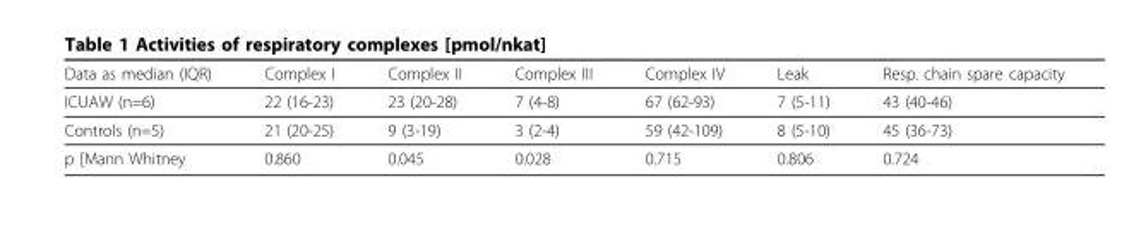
<table><thead><tr><td>Data as median (IQR)</td><td>Complex I</td><td>Complex II</td><td>Complex III</td><td>Complex IV</td><td>Leak</td><td>Resp. chain spare capacity</td></tr></thead><tbody><tr><td>ICUAW (n=6)</td><td>22 (16-23)</td><td>23 (20-28)</td><td>7 (4-8)</td><td>67 (62-93)</td><td>7 (5-11)</td><td>43 (40-46)</td></tr><tr><td>Controls (n=5)</td><td>21 (20-25)</td><td>9 (3-19)</td><td>3 (2-4)</td><td>59 (42-109)</td><td>8 (5-10)</td><td>45 (36-73)</td></tr><tr><td>p [Mann Whitney</td><td>0.860</td><td>0.045</td><td>0.028</td><td>0.715</td><td>0.806</td><td>0.724</td></tr></tbody></table>